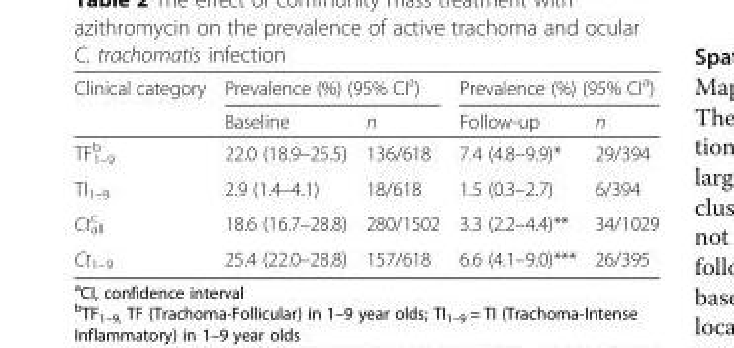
<table><thead><tr><td rowspan="2">Clinical category</td><td colspan="2">Prevalence (%) (95% CI<sup>a</sup>)</td><td colspan="2">Prevalence (%) (95% CI<sup>a</sup>)</td></tr><tr><td>Baseline</td><td>n</td><td>Follow-up</td><td>n</td></tr></thead><tbody><tr><td>TF<sub>1–9</sub> <sup>b</sup></td><td>22.0 (18.9–25.5)</td><td>136/618</td><td>7.4 (4.8–9.9)*</td><td>29/394</td></tr><tr><td>TI<sub>1–9</sub></td><td>2.9 (1.4–4.1)</td><td>18/618</td><td>1.5 (0.3–2.7)</td><td>6/394</td></tr><tr><td>Ct<sub>all</sub> <sup>c</sup></td><td>18.6 (16.7–28.8)</td><td>280/1502</td><td>3.3 (2.2–4.4)**</td><td>34/1029</td></tr><tr><td>Ct<sub>1–9</sub></td><td>25.4 (22.0–28.8)</td><td>157/618</td><td>6.6 (4.1–9.0)***</td><td>26/395</td></tr></tbody></table>